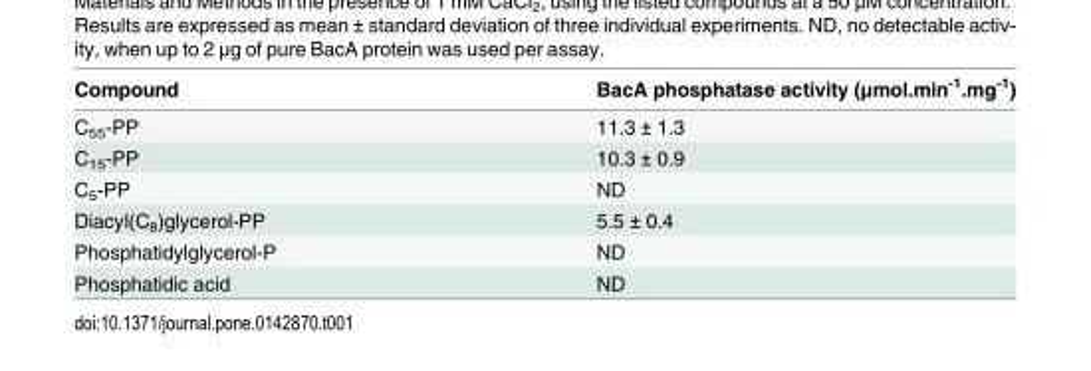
<table><thead><tr><td>Compound</td><td>BacA phosphatase activity (μmol.min<sup>-1</sup>.mg<sup>-1</sup>)</td></tr></thead><tbody><tr><td>C<sub>55</sub>-PP</td><td>11.3 ± 1.3</td></tr><tr><td>C<sub>15</sub>-PP</td><td>10.3 ± 0.9</td></tr><tr><td>C<sub>5</sub>-PP</td><td>ND</td></tr><tr><td>Diacyl(C<sub>8</sub>)glycerol-PP</td><td>5.5 ± 0.4</td></tr><tr><td>Phosphatidylglycerol-P</td><td>ND</td></tr><tr><td>Phosphatidic acid</td><td>ND</td></tr></tbody></table>